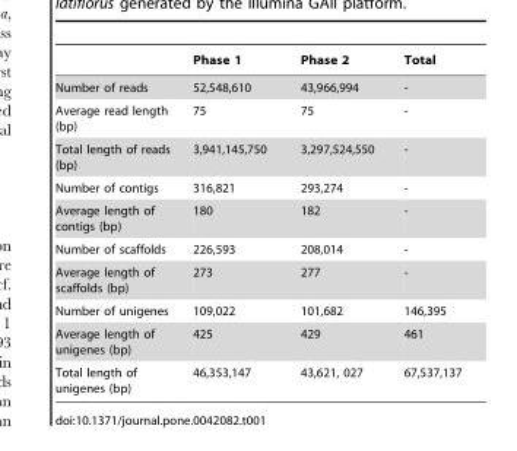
<table><thead><tr><td></td><td>Phase 1</td><td>Phase 2</td><td>Total</td></tr></thead><tbody><tr><td>Number of reads</td><td>52,548,610</td><td>43,966,994</td><td>-</td></tr><tr><td>Average read length (bp)</td><td>75</td><td>75</td><td>-</td></tr><tr><td>Total length of reads (bp)</td><td>3,941,145,750</td><td>3,297,524,550</td><td>-</td></tr><tr><td>Number of contigs</td><td>316,821</td><td>293,274</td><td>-</td></tr><tr><td>Average length of contigs (bp)</td><td>180</td><td>182</td><td>-</td></tr><tr><td>Number of scaffolds</td><td>226,593</td><td>208,014</td><td>-</td></tr><tr><td>Average length of scaffolds (bp)</td><td>273</td><td>277</td><td>-</td></tr><tr><td>Number of unigenes</td><td>109,022</td><td>101,682</td><td>146,395</td></tr><tr><td>Average length of unigenes (bp)</td><td>425</td><td>429</td><td>461</td></tr><tr><td>Total length of unigenes (bp)</td><td>46,353,147</td><td>43,621, 027</td><td>67,537,137</td></tr></tbody></table>